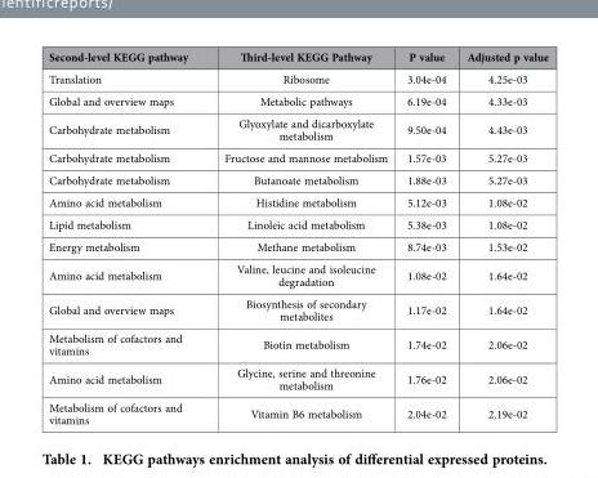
<table><thead><tr><td>Second-level KEGG pathway</td><td>Third-level KEGG Pathway</td><td>P value</td><td>Adjusted p value</td></tr></thead><tbody><tr><td>Translation</td><td>Ribosome</td><td>3.04e-04</td><td>4.25e-03</td></tr><tr><td>Global and overview maps</td><td>Metabolic pathways</td><td>6.19e-04</td><td>4.33e-03</td></tr><tr><td>Carbohydrate metabolism</td><td>Glyoxylate and dicarboxylate metabolism</td><td>9.50e-04</td><td>4.43e-03</td></tr><tr><td>Carbohydrate metabolism</td><td>Fructose and mannose metabolism</td><td>1.57e-03</td><td>5.27e-03</td></tr><tr><td>Carbohydrate metabolism</td><td>Butanoate metabolism</td><td>1.88e-03</td><td>5.27e-03</td></tr><tr><td>Amino acid metabolism</td><td>Histidine metabolism</td><td>5.12e-03</td><td>1.08e-02</td></tr><tr><td>Lipid metabolism</td><td>Linoleic acid metabolism</td><td>5.38e-03</td><td>1.08e-02</td></tr><tr><td>Energy metabolism</td><td>Methane metabolism</td><td>8.74e-03</td><td>1.53e-02</td></tr><tr><td>Amino acid metabolism</td><td>Valine, leucine and isoleucine degradation</td><td>1.08e-02</td><td>1.64e-02</td></tr><tr><td>Global and overview maps</td><td>Biosynthesis of secondary metabolites</td><td>1.17e-02</td><td>1.64e-02</td></tr><tr><td>Metabolism of cofactors and vitamins</td><td>Biotin metabolism</td><td>1.74e-02</td><td>2.06e-02</td></tr><tr><td>Amino acid metabolism</td><td>Glycine, serine and threonine metabolism</td><td>1.76e-02</td><td>2.06e-02</td></tr><tr><td>Metabolism of cofactors and vitamins</td><td>Vitamin B6 metabolism</td><td>2.04e-02</td><td>2.19e-02</td></tr></tbody></table>